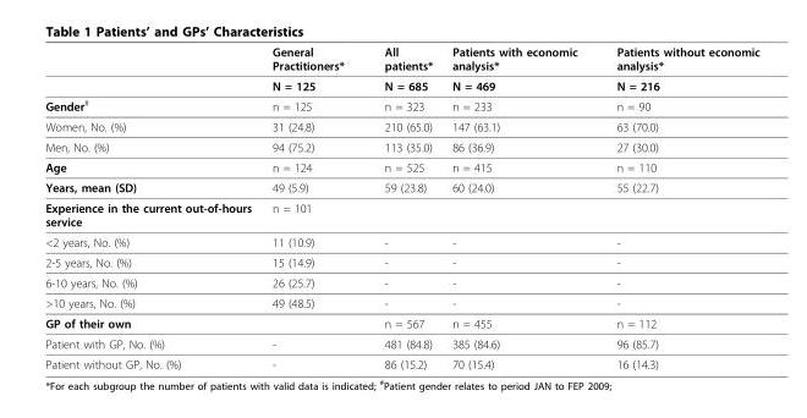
<table><thead><tr><td></td><td>General Practitioners*</td><td>All patients*</td><td>Patients with economic analysis*</td><td>Patients without economic analysis*</td></tr></thead><tbody><tr><td></td><td>N = 125</td><td>N = 685</td><td>N = 469</td><td>N = 216</td></tr><tr><td>Gender<sup>#</sup></td><td>n = 125</td><td>n = 323</td><td>n = 233</td><td>n = 90</td></tr><tr><td>Women, No. (%)</td><td>31 (24.8)</td><td>210 (65.0)</td><td>147 (63.1)</td><td>63 (70.0)</td></tr><tr><td>Men, No. (%)</td><td>94 (75.2)</td><td>113 (35.0)</td><td>86 (36.9)</td><td>27 (30.0)</td></tr><tr><td>Age</td><td>n = 124</td><td>n = 525</td><td>n = 415</td><td>n = 110</td></tr><tr><td>Years, mean (SD)</td><td>49 (5.9)</td><td>59 (23.8)</td><td>60 (24.0)</td><td>55 (22.7)</td></tr><tr><td>Experience in the current out-of-hours service</td><td>n = 101</td><td></td><td></td><td></td></tr><tr><td>&lt;2 years, No. (%)</td><td>11 (10.9)</td><td>-</td><td>-</td><td>-</td></tr><tr><td>2-5 years, No. (%)</td><td>15 (14.9)</td><td>-</td><td>-</td><td>-</td></tr><tr><td>6-10 years, No. (%)</td><td>26 (25.7)</td><td>-</td><td>-</td><td>-</td></tr><tr><td>&gt;10 years, No. (%)</td><td>49 (48.5)</td><td>-</td><td>-</td><td>-</td></tr><tr><td>GP of their own</td><td></td><td>n = 567</td><td>n = 455</td><td>n = 112</td></tr><tr><td>Patient with GP, No. (%)</td><td>-</td><td>481 (84.8)</td><td>385 (84.6)</td><td>96 (85.7)</td></tr><tr><td>Patient without GP, No. (%)</td><td>-</td><td>86 (15.2)</td><td>70 (15.4)</td><td>16 (14.3)</td></tr></tbody></table>